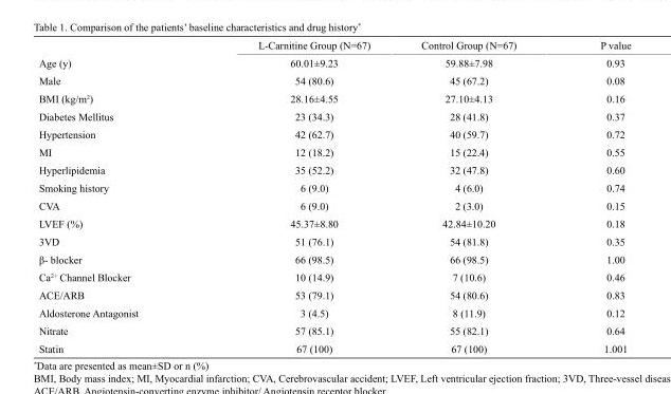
<table><thead><tr><td></td><td>L-Carnitine Group (N=67)</td><td>Control Group (N=67)</td><td>P value</td></tr></thead><tbody><tr><td>Age (y)</td><td>60.01±9.23</td><td>59.88±7.98</td><td>0.93</td></tr><tr><td>Male</td><td>54 (80.6)</td><td>45 (67.2)</td><td>0.08</td></tr><tr><td>BMI (kg/m<sup>2</sup>)</td><td>28.16±4.55</td><td>27.10±4.13</td><td>0.16</td></tr><tr><td>Diabetes Mellitus</td><td>23 (34.3)</td><td>28 (41.8)</td><td>0.37</td></tr><tr><td>Hypertension</td><td>42 (62.7)</td><td>40 (59.7)</td><td>0.72</td></tr><tr><td>MI</td><td>12 (18.2)</td><td>15 (22.4)</td><td>0.55</td></tr><tr><td>Hyperlipidemia</td><td>35 (52.2)</td><td>32 (47.8)</td><td>0.60</td></tr><tr><td>Smoking history</td><td>6 (9.0)</td><td>4 (6.0)</td><td>0.74</td></tr><tr><td>CVA</td><td>6 (9.0)</td><td>2 (3.0)</td><td>0.15</td></tr><tr><td>LVEF (%)</td><td>45.37±8.80</td><td>42.84±10.20</td><td>0.18</td></tr><tr><td>3VD</td><td>51 (76.1)</td><td>54 (81.8)</td><td>0.35</td></tr><tr><td>β- blocker</td><td>66 (98.5)</td><td>66 (98.5)</td><td>1.00</td></tr><tr><td>Ca<sup>2+</sup> Channel Blocker</td><td>10 (14.9)</td><td>7 (10.6)</td><td>0.46</td></tr><tr><td>ACE/ARB</td><td>53 (79.1)</td><td>54 (80.6)</td><td>0.83</td></tr><tr><td>Aldosterone Antagonist</td><td>3 (4.5)</td><td>8 (11.9)</td><td>0.12</td></tr><tr><td>Nitrate</td><td>57 (85.1)</td><td>55 (82.1)</td><td>0.64</td></tr><tr><td>Statin</td><td>67 (100)</td><td>67 (100)</td><td>1.001</td></tr></tbody></table>